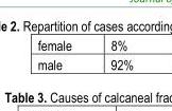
<table><tbody><tr><td>female</td><td>8%</td></tr><tr><td>male</td><td>92%</td></tr></tbody></table>